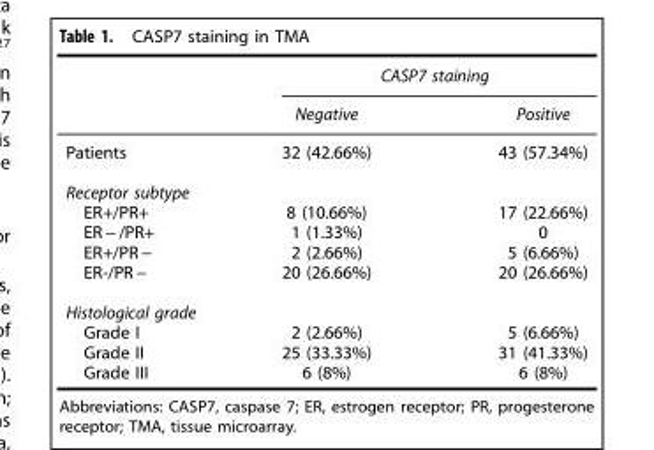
<table><thead><tr><td rowspan="2"></td><td colspan="2">CASP7 staining</td></tr><tr><td>Negative</td><td>Positive</td></tr></thead><tbody><tr><td>Patients</td><td>32 (42.66%)</td><td>43 (57.34%)</td></tr><tr><td colspan="3">Receptor subtype</td></tr><tr><td>ER+/PR+</td><td>8 (10.66%)</td><td>17 (22.66%)</td></tr><tr><td>ER − /PR+</td><td>1 (1.33%)</td><td>0</td></tr><tr><td>ER+/PR −</td><td>2 (2.66%)</td><td>5 (6.66%)</td></tr><tr><td>ER-/PR −</td><td>20 (26.66%)</td><td>20 (26.66%)</td></tr><tr><td colspan="3">Histological grade</td></tr><tr><td>Grade I</td><td>2 (2.66%)</td><td>5 (6.66%)</td></tr><tr><td>Grade II</td><td>25 (33.33%)</td><td>31 (41.33%)</td></tr><tr><td>Grade III</td><td>6 (8%)</td><td>6 (8%)</td></tr></tbody></table>